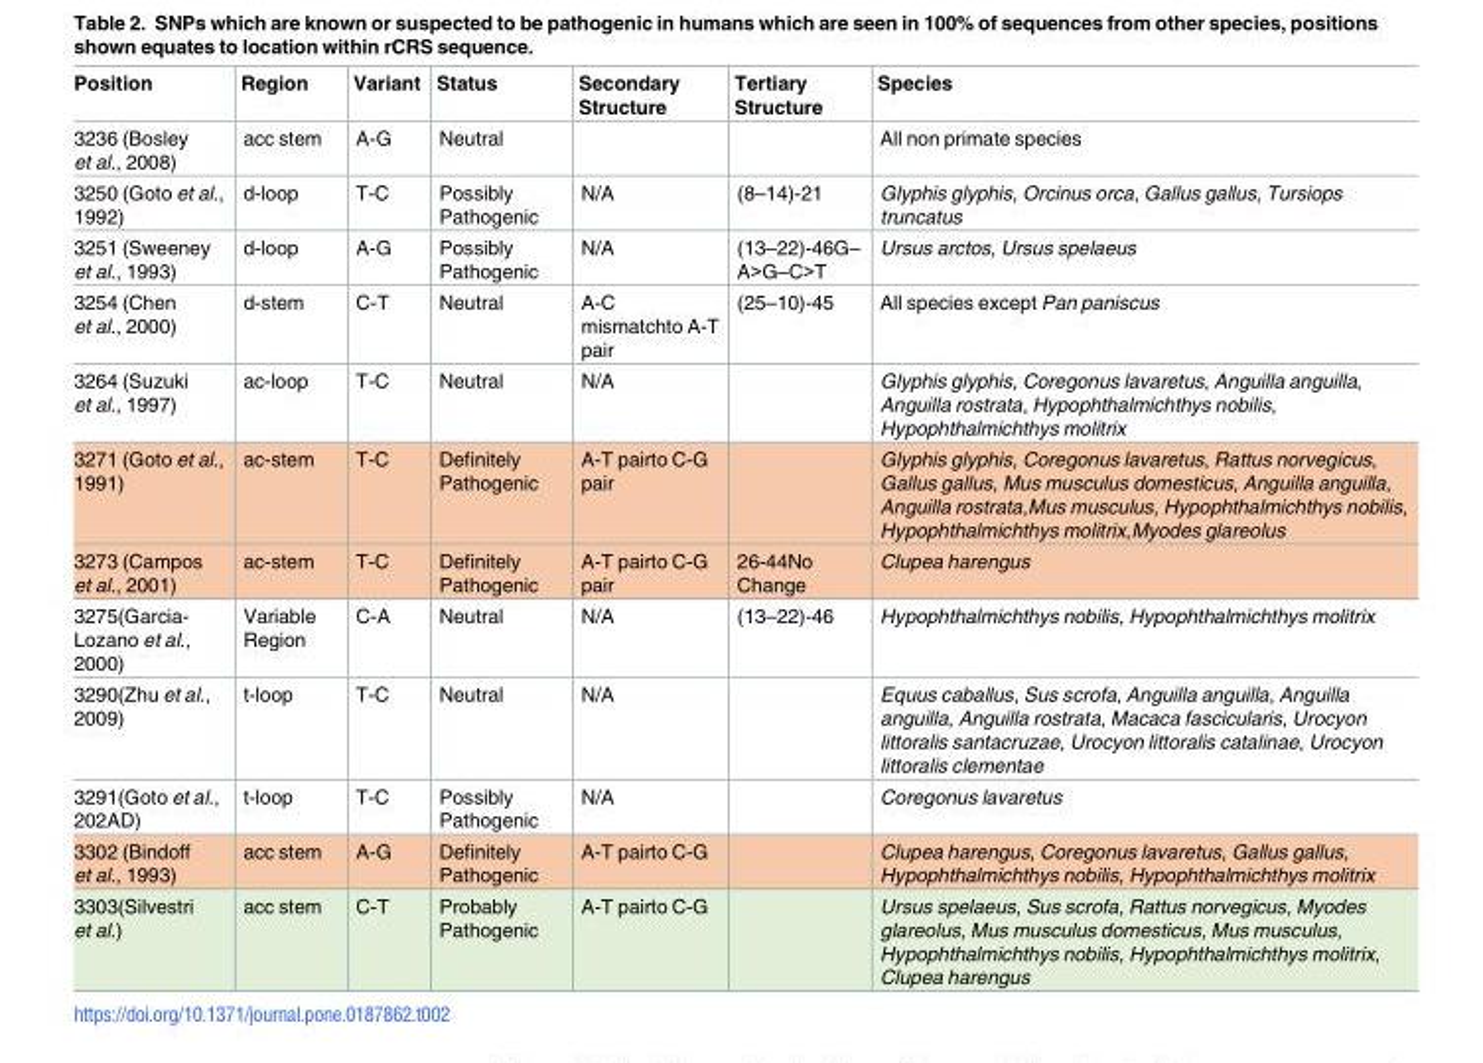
<table><thead><tr><td>Position</td><td>Region</td><td>Variant</td><td>Status</td><td>Secondary Structure</td><td>Tertiary Structure</td><td>Species</td></tr></thead><tbody><tr><td>3236 (Bosley et al., 2008)</td><td>acc stem</td><td>A-G</td><td>Neutral</td><td></td><td></td><td>All non primate species</td></tr><tr><td>3250 (Goto et al., 1992)</td><td>d-loop</td><td>T-C</td><td>Possibly Pathogenic</td><td>N/A</td><td>(8–14)-21</td><td>Glyphis glyphis, Orcinus orca, Gallus gallus, Tursiops truncatus</td></tr><tr><td>3251 (Sweeney et al., 1993)</td><td>d-loop</td><td>A-G</td><td>Possibly Pathogenic</td><td>N/A</td><td>(13–22)-46G– A&gt;G–C&gt;T</td><td>Ursus arctos, Ursus spelaeus</td></tr><tr><td>3254 (Chen et al., 2000)</td><td>d-stem</td><td>C-T</td><td>Neutral</td><td>A-C mismatchto A-T pair</td><td>(25–10)-45</td><td>All species except Pan paniscus</td></tr><tr><td>3264 (Suzuki et al., 1997)</td><td>ac-loop</td><td>T-C</td><td>Neutral</td><td>N/A</td><td></td><td>Glyphis glyphis, Coregonus lavaretus, Anguilla anguilla, Anguilla rostrata, Hypophthalmichthys nobilis, Hypophthalmichthys molitrix</td></tr><tr><td>3271 (Goto et al., 1991)</td><td>ac-stem</td><td>T-C</td><td>Definitely Pathogenic</td><td>A-T pairto C-G pair</td><td></td><td>Glyphis glyphis, Coregonus lavaretus, Rattus norvegicus, Gallus gallus, Mus musculus domesticus, Anguilla anguilla, Anguilla rostrata,Mus musculus, Hypophthalmichthys nobilis, Hypophthalmichthys molitrix,Myodes glareolus</td></tr><tr><td>3273 (Campos et al., 2001)</td><td>ac-stem</td><td>T-C</td><td>Definitely Pathogenic</td><td>A-T pairto C-G pair</td><td>26-44No Change</td><td>Clupea harengus</td></tr><tr><td>3275(Garcia- Lozano et al., 2000)</td><td>Variable Region</td><td>C-A</td><td>Neutral</td><td>N/A</td><td>(13–22)-46</td><td>Hypophthalmichthys nobilis, Hypophthalmichthys molitrix</td></tr><tr><td>3290(Zhu et al., 2009)</td><td>t-loop</td><td>T-C</td><td>Neutral</td><td>N/A</td><td></td><td>Equus caballus, Sus scrofa, Anguilla anguilla, Anguilla anguilla, Anguilla rostrata, Macaca fascicularis, Urocyon littoralis santacruzae, Urocyon littoralis catalinae, Urocyon littoralis clementae</td></tr><tr><td>3291(Goto et al., 202AD)</td><td>t-loop</td><td>T-C</td><td>Possibly Pathogenic</td><td>N/A</td><td></td><td>Coregonus lavaretus</td></tr><tr><td>3302 (Bindoff et al., 1993)</td><td>acc stem</td><td>A-G</td><td>Definitely Pathogenic</td><td>A-T pairto C-G</td><td></td><td>Clupea harengus, Coregonus lavaretus, Gallus gallus, Hypophthalmichthys nobilis, Hypophthalmichthys molitrix</td></tr><tr><td>3303(Silvestri et al.)</td><td>acc stem</td><td>C-T</td><td>Probably Pathogenic</td><td>A-T pairto C-G</td><td></td><td>Ursus spelaeus, Sus scrofa, Rattus norvegicus, Myodes glareolus, Mus musculus domesticus, Mus musculus, Hypophthalmichthys nobilis, Hypophthalmichthys molitrix, Clupea harengus</td></tr></tbody></table>